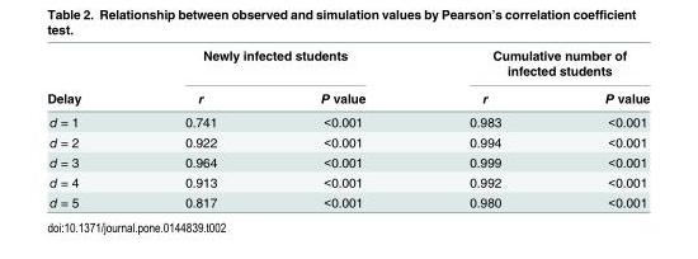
<table><thead><tr><td rowspan="2">Delay</td><td colspan="2">Newly infected students</td><td colspan="2">Cumulative number of infected students</td></tr><tr><td>r</td><td>P value</td><td>r</td><td>P value</td></tr></thead><tbody><tr><td>d = 1</td><td>0.741</td><td>&lt;0.001</td><td>0.983</td><td>&lt;0.001</td></tr><tr><td>d = 2</td><td>0.922</td><td>&lt;0.001</td><td>0.994</td><td>&lt;0.001</td></tr><tr><td>d = 3</td><td>0.964</td><td>&lt;0.001</td><td>0.999</td><td>&lt;0.001</td></tr><tr><td>d = 4</td><td>0.913</td><td>&lt;0.001</td><td>0.992</td><td>&lt;0.001</td></tr><tr><td>d = 5</td><td>0.817</td><td>&lt;0.001</td><td>0.980</td><td>&lt;0.001</td></tr></tbody></table>